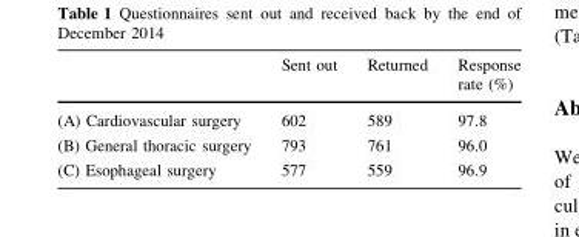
<table><thead><tr><td></td><td>Sent out</td><td>Returned</td><td>Response rate (%)</td></tr></thead><tbody><tr><td>(A) Cardiovascular surgery</td><td>602</td><td>589</td><td>97.8</td></tr><tr><td>(B) General thoracic surgery</td><td>793</td><td>761</td><td>96.0</td></tr><tr><td>(C) Esophageal surgery</td><td>577</td><td>559</td><td>96.9</td></tr></tbody></table>